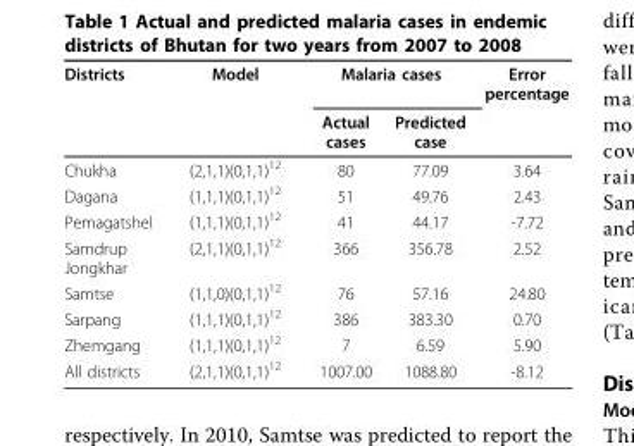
<table><thead><tr><td rowspan="2">Districts</td><td rowspan="2">Model</td><td colspan="2">Malaria cases</td><td rowspan="2">Error percentage</td></tr><tr><td>Actual cases</td><td>Predicted case</td></tr></thead><tbody><tr><td>Chukha</td><td>(2,1,1)(0,1,1)<sup>12</sup></td><td>80</td><td>77.09</td><td>3.64</td></tr><tr><td>Dagana</td><td>(1,1,1)(0,1,1)<sup>12</sup></td><td>51</td><td>49.76</td><td>2.43</td></tr><tr><td>Pemagatshel</td><td>(1,1,1)(0,1,1)<sup>12</sup></td><td>41</td><td>44.17</td><td>-7.72</td></tr><tr><td>Samdrup Jongkhar</td><td>(2,1,1)(0,1,1)<sup>12</sup></td><td>366</td><td>356.78</td><td>2.52</td></tr><tr><td>Samtse</td><td>(1,1,0)(0,1,1)<sup>12</sup></td><td>76</td><td>57.16</td><td>24.80</td></tr><tr><td>Sarpang</td><td>(1,1,1)(0,1,1)<sup>12</sup></td><td>386</td><td>383.30</td><td>0.70</td></tr><tr><td>Zhemgang</td><td>(1,1,1)(0,1,1)<sup>12</sup></td><td>7</td><td>6.59</td><td>5.90</td></tr><tr><td>All districts</td><td>(2,1,1)(0,1,1)<sup>12</sup></td><td>1007.00</td><td>1088.80</td><td>-8.12</td></tr></tbody></table>